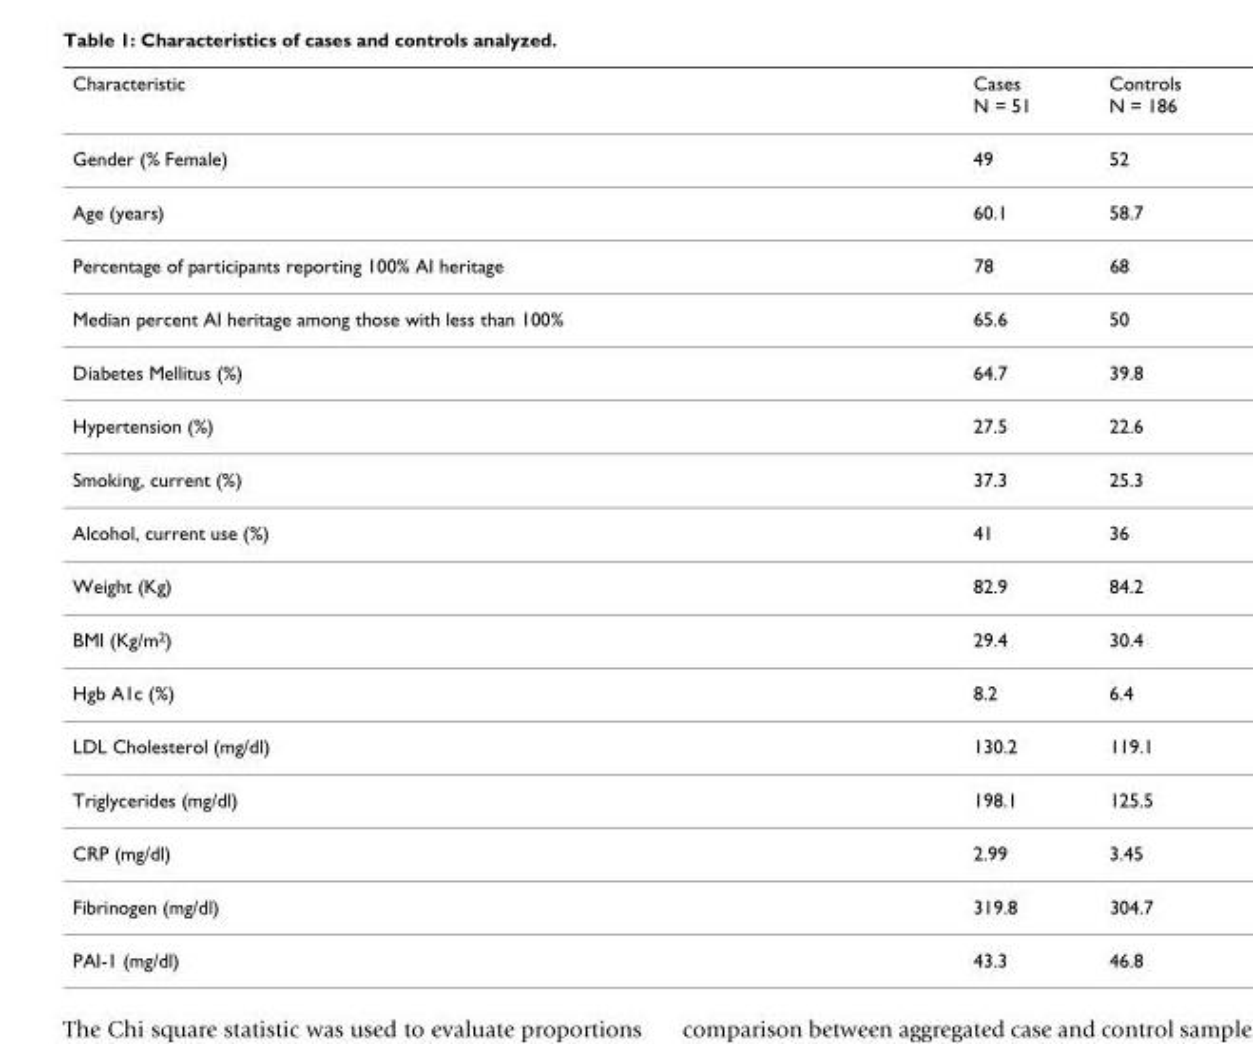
<table><thead><tr><td>Characteristic</td><td>Cases N = 51</td><td>Controls N = 186</td></tr></thead><tbody><tr><td>Gender (% Female)</td><td>49</td><td>52</td></tr><tr><td>Age (years)</td><td>60.1</td><td>58.7</td></tr><tr><td>Percentage of participants reporting 100% AI heritage</td><td>78</td><td>68</td></tr><tr><td>Median percent AI heritage among those with less than 100%</td><td>65.6</td><td>50</td></tr><tr><td>Diabetes Mellitus (%)</td><td>64.7</td><td>39.8</td></tr><tr><td>Hypertension (%)</td><td>27.5</td><td>22.6</td></tr><tr><td>Smoking, current (%)</td><td>37.3</td><td>25.3</td></tr><tr><td>Alcohol, current use (%)</td><td>41</td><td>36</td></tr><tr><td>Weight (Kg)</td><td>82.9</td><td>84.2</td></tr><tr><td>BMI (Kg/m<sup>2</sup>)</td><td>29.4</td><td>30.4</td></tr><tr><td>Hgb A1c (%)</td><td>8.2</td><td>6.4</td></tr><tr><td>LDL Cholesterol (mg/dl)</td><td>130.2</td><td>119.1</td></tr><tr><td>Triglycerides (mg/dl)</td><td>198.1</td><td>125.5</td></tr><tr><td>CRP (mg/dl)</td><td>2.99</td><td>3.45</td></tr><tr><td>Fibrinogen (mg/dl)</td><td>319.8</td><td>304.7</td></tr><tr><td>PAI-1 (mg/dl)</td><td>43.3</td><td>46.8</td></tr></tbody></table>